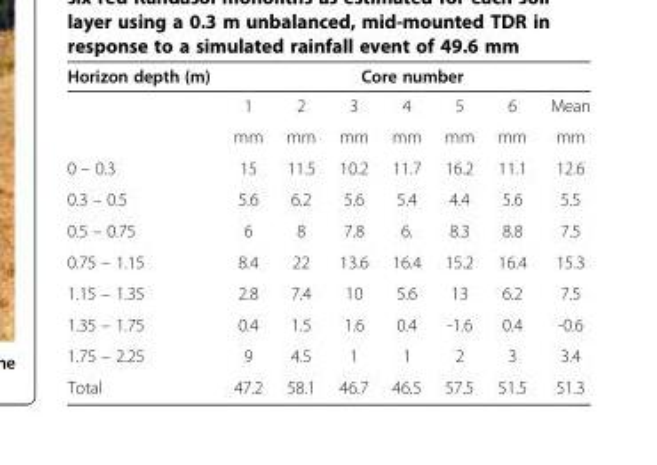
<table><thead><tr><td rowspan="2">Horizon depth (m)</td><td colspan="7">Core number</td></tr><tr><td>1</td><td>2</td><td>3</td><td>4</td><td>5</td><td>6</td><td>Mean</td></tr></thead><tbody><tr><td></td><td>mm</td><td>mm</td><td>mm</td><td>mm</td><td>mm</td><td>mm</td><td>mm</td></tr><tr><td>0 – 0.3</td><td>15</td><td>11.5</td><td>10.2</td><td>11.7</td><td>16.2</td><td>11.1</td><td>12.6</td></tr><tr><td>0.3 – 0.5</td><td>5.6</td><td>6.2</td><td>5.6</td><td>5.4</td><td>4.4</td><td>5.6</td><td>5.5</td></tr><tr><td>0.5 – 0.75</td><td>6</td><td>8</td><td>7.8</td><td>6.</td><td>8.3</td><td>8.8</td><td>7.5</td></tr><tr><td>0.75 – 1.15</td><td>8.4</td><td>22</td><td>13.6</td><td>16.4</td><td>15.2</td><td>16.4</td><td>15.3</td></tr><tr><td>1.15 – 1.35</td><td>2.8</td><td>7.4</td><td>10</td><td>5.6</td><td>13</td><td>6.2</td><td>7.5</td></tr><tr><td>1.35 – 1.75</td><td>0.4</td><td>1.5</td><td>1.6</td><td>0.4</td><td>-1.6</td><td>0.4</td><td>-0.6</td></tr><tr><td>1.75 – 2.25</td><td>9</td><td>4.5</td><td>1</td><td>1</td><td>2</td><td>3</td><td>3.4</td></tr><tr><td>Total</td><td>47.2</td><td>58.1</td><td>46.7</td><td>46.5</td><td>57.5</td><td>51.5</td><td>51.3</td></tr></tbody></table>